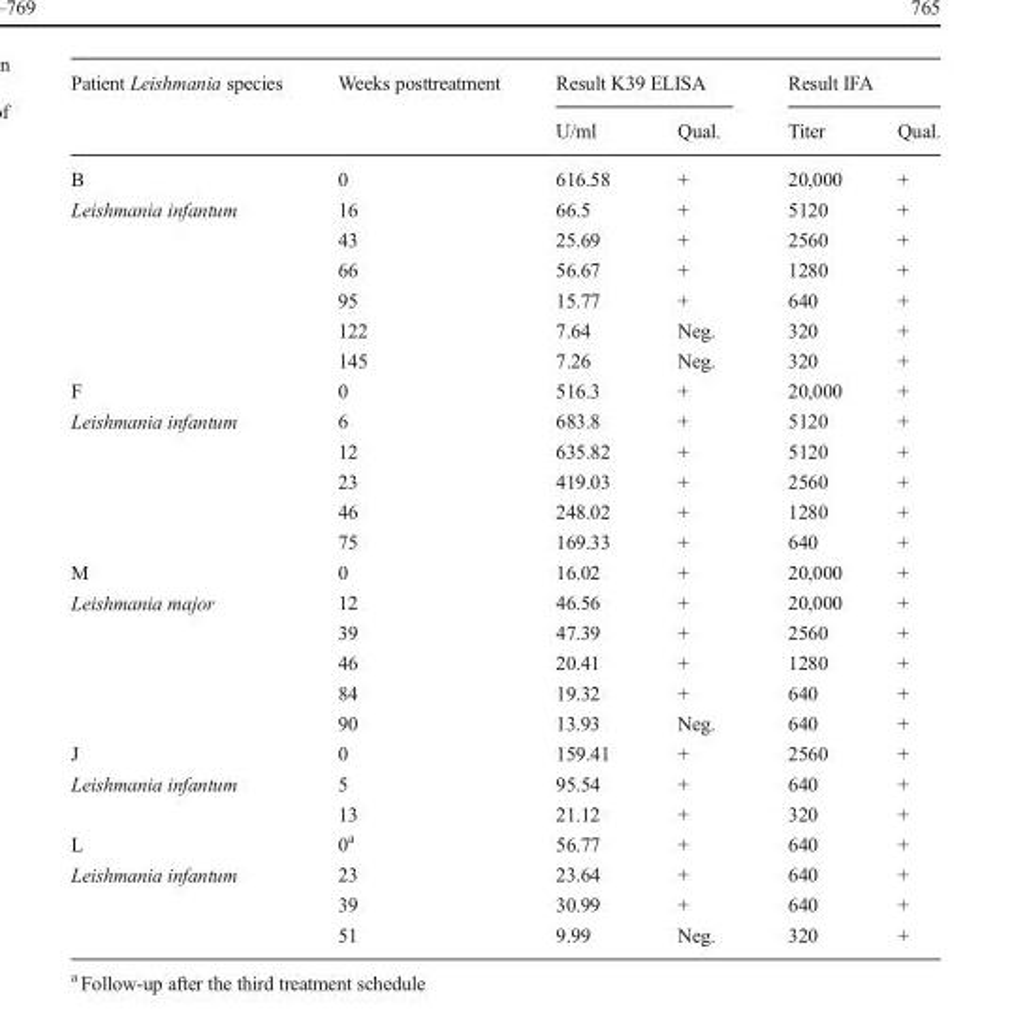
<table><thead><tr><td rowspan="2">Patient Leishmania species</td><td rowspan="2">Weeks posttreatment</td><td colspan="2">Result K39 ELISA</td><td colspan="2">Result IFA</td></tr><tr><td>U/ml</td><td>Qual.</td><td>Titer</td><td>Qual.</td></tr></thead><tbody><tr><td rowspan="7">B Leishmania infantum</td><td>0</td><td>616.58</td><td>+</td><td>20,000</td><td>+</td></tr><tr><td>16</td><td>66.5</td><td>+</td><td>5120</td><td>+</td></tr><tr><td>43</td><td>25.69</td><td>+</td><td>2560</td><td>+</td></tr><tr><td>66</td><td>56.67</td><td>+</td><td>1280</td><td>+</td></tr><tr><td>95</td><td>15.77</td><td>+</td><td>640</td><td>+</td></tr><tr><td>122</td><td>7.64</td><td>Neg.</td><td>320</td><td>+</td></tr><tr><td>145</td><td>7.26</td><td>Neg.</td><td>320</td><td>+</td></tr><tr><td rowspan="6">F Leishmania infantum</td><td>0</td><td>516.3</td><td>+</td><td>20,000</td><td>+</td></tr><tr><td>6</td><td>683.8</td><td>+</td><td>5120</td><td>+</td></tr><tr><td>12</td><td>635.82</td><td>+</td><td>5120</td><td>+</td></tr><tr><td>23</td><td>419.03</td><td>+</td><td>2560</td><td>+</td></tr><tr><td>46</td><td>248.02</td><td>+</td><td>1280</td><td>+</td></tr><tr><td>75</td><td>169.33</td><td>+</td><td>640</td><td>+</td></tr><tr><td rowspan="6">M Leishmania major</td><td>0</td><td>16.02</td><td>+</td><td>20,000</td><td>+</td></tr><tr><td>12</td><td>46.56</td><td>+</td><td>20,000</td><td>+</td></tr><tr><td>39</td><td>47.39</td><td>+</td><td>2560</td><td>+</td></tr><tr><td>46</td><td>20.41</td><td>+</td><td>1280</td><td>+</td></tr><tr><td>84</td><td>19.32</td><td>+</td><td>640</td><td>+</td></tr><tr><td>90</td><td>13.93</td><td>Neg.</td><td>640</td><td>+</td></tr><tr><td rowspan="3">J Leishmania infantum</td><td>0</td><td>159.41</td><td>+</td><td>2560</td><td>+</td></tr><tr><td>5</td><td>95.54</td><td>+</td><td>640</td><td>+</td></tr><tr><td>13</td><td>21.12</td><td>+</td><td>320</td><td>+</td></tr><tr><td rowspan="4">L Leishmania infantum</td><td>0<sup>a</sup></td><td>56.77</td><td>+</td><td>640</td><td>+</td></tr><tr><td>23</td><td>23.64</td><td>+</td><td>640</td><td>+</td></tr><tr><td>39</td><td>30.99</td><td>+</td><td>640</td><td>+</td></tr><tr><td>51</td><td>9.99</td><td>Neg.</td><td>320</td><td>+</td></tr></tbody></table>